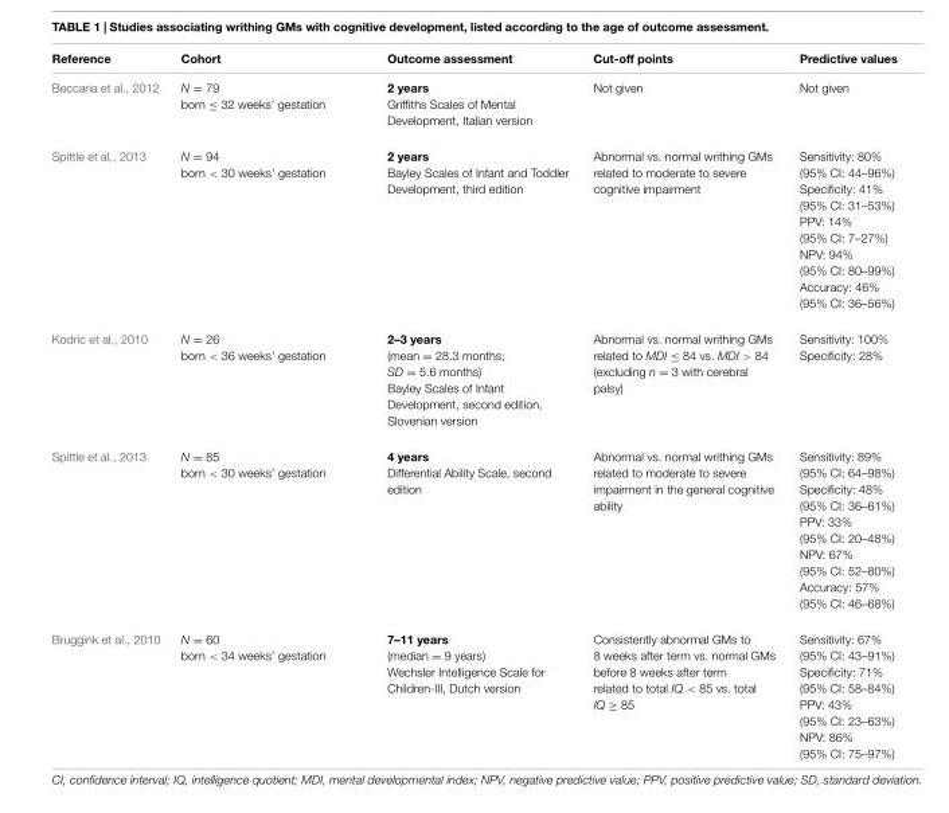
<table><thead><tr><td>Reference</td><td>Cohort</td><td>Outcome assessment</td><td>Cut-off points</td><td>Predictive values</td></tr></thead><tbody><tr><td>Beccaria et al., 2012</td><td>N = 79 born ≤ 32 weeks’ gestation</td><td>2 years Griffiths Scales of Mental Development, Italian version</td><td>Not given</td><td>Not given</td></tr><tr><td>Spittle et al., 2013</td><td>N = 94 born &lt; 30 weeks’ gestation</td><td>2 years Bayley Scales of Infant and Toddler Development, third edition</td><td>Abnormal vs. normal writhing GMs related to moderate to severe cognitive impairment</td><td>Sensitivity: 80% (95% CI: 44–96%) Specificity: 41% (95% CI: 31–53%) PPV: 14% (95% CI: 7–27%) NPV: 94% (95% CI: 80–99%) Accuracy: 46% (95% CI: 36–56%)</td></tr><tr><td>Kodric et al., 2010</td><td>N = 26 born &lt; 36 weeks’ gestation</td><td>2–3 years (mean = 28.3 months; SD = 5.6 months) Bayley Scales of Infant Development, second edition, Slovenian version</td><td>Abnormal vs. normal writhing GMs related to MDI ≤ 84 vs. MDI &gt; 84 (excluding n = 3 with cerebral palsy)</td><td>Sensitivity: 100% Specificity: 28%</td></tr><tr><td>Spittle et al., 2013</td><td>N = 85 born &lt; 30 weeks’ gestation</td><td>4 years Differential Ability Scale, second edition</td><td>Abnormal vs. normal writhing GMs related to moderate to severe impairment in the general cognitive ability</td><td>Sensitivity: 89% (95% CI: 64–98%) Specificity: 48% (95% CI: 36–61%) PPV: 33% (95% CI: 20–48%) NPV: 67% (95% CI: 52–80%) Accuracy: 57% (95% CI: 46–68%)</td></tr><tr><td>Bruggink et al., 2010</td><td>N = 60 born &lt; 34 weeks’ gestation</td><td>7–11 years (median = 9 years) Wechsler Intelligence Scale for Children-III, Dutch version</td><td>Consistently abnormal GMs to 8 weeks after term vs. normal GMs before 8 weeks after term related to total IQ &lt; 85 vs. total IQ ≥ 85</td><td>Sensitivity: 67% (95% CI: 43–91%) Specificity: 71% (95% CI: 58–84%) PPV: 43% (95% CI: 23–63%) NPV: 86% (95% CI: 75–97%)</td></tr></tbody></table>